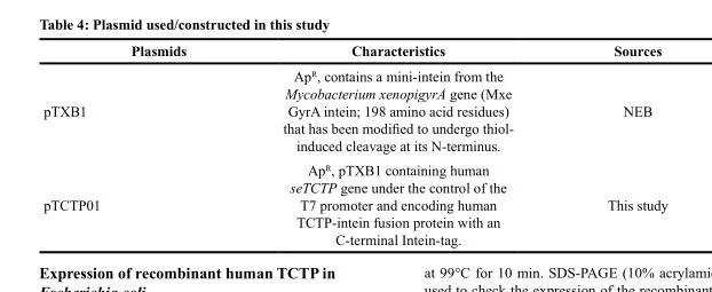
<table><thead><tr><td>Plasmids</td><td>Characteristics</td><td>Sources</td></tr></thead><tbody><tr><td>pTXB1</td><td>Ap<sup>R</sup>, contains a mini-intein from the Mycobacterium xenopigyrA gene (Mxe GyrA intein; 198 amino acid residues) that has been modified to undergo thiol- induced cleavage at its N-terminus.</td><td>NEB</td></tr><tr><td>pTCTP01</td><td>Ap<sup>R</sup>, pTXB1 containing human seTCTP gene under the control of the T7 promoter and encoding human TCTP-intein fusion protein with an C-terminal Intein-tag.</td><td>This study</td></tr></tbody></table>